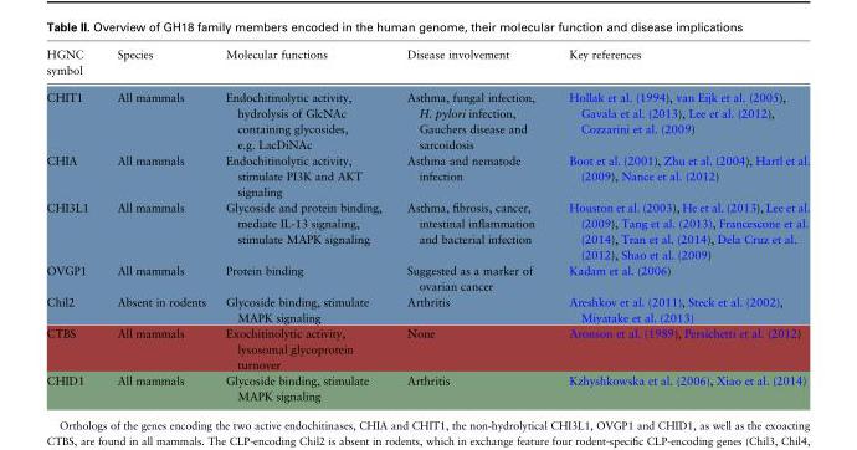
<table><thead><tr><td>HGNC symbol</td><td>Species</td><td>Molecular functions</td><td>Disease involvement</td><td>Key references</td></tr></thead><tbody><tr><td>CHIT1</td><td>All mammals</td><td>Endochitinolytic activity, hydrolysis of GlcNAc containing glycosides, e.g. LacDiNAc</td><td>Asthma, fungal infection, H. pylori infection, Gauchers disease and sarcoidosis</td><td>Hollak et al. (1994), van Eijk et al. (2005), Gavala et al. (2013), Lee et al. (2012), Cozzarini et al. (2009)</td></tr><tr><td>CHIA</td><td>All mammals</td><td>Endochitinolytic activity, stimulate PI3K and AKT signaling</td><td>Asthma and nematode infection</td><td>Boot et al. (2001), Zhu et al. (2004), Hartl et al. (2009), Nance et al. (2012)</td></tr><tr><td>CHI3L1</td><td>All mammals</td><td>Glycoside and protein binding, mediate IL-13 signaling, stimulate MAPK signaling</td><td>Asthma, fibrosis, cancer, intestinal inflammation and bacterial infection</td><td>Houston et al. (2003), He et al. (2013), Lee et al. (2009), Tang et al. (2013), Francescone et al. (2014), Tran et al. (2014), Dela Cruz et al. (2012), Shao et al. (2009)</td></tr><tr><td>OVGP1</td><td>All mammals</td><td>Protein binding</td><td>Suggested as a marker of ovarian cancer</td><td>Kadam et al. (2006)</td></tr><tr><td>Chil2</td><td>Absent in rodents</td><td>Glycoside binding, stimulate MAPK signaling</td><td>Arthritis</td><td>Areshkov et al. (2011), Steck et al. (2002), Miyatake et al. (2013)</td></tr><tr><td>CTBS</td><td>All mammals</td><td>Exochitinolytic activity, lysosomal glycoprotein turnover</td><td>None</td><td>Aronson et al. (1989), Persichetti et al. (2012)</td></tr><tr><td>CHID1</td><td>All mammals</td><td>Glycoside binding, stimulate MAPK signaling</td><td>Arthritis</td><td>Kzhyshkowska et al. (2006), Xiao et al. (2014)</td></tr></tbody></table>